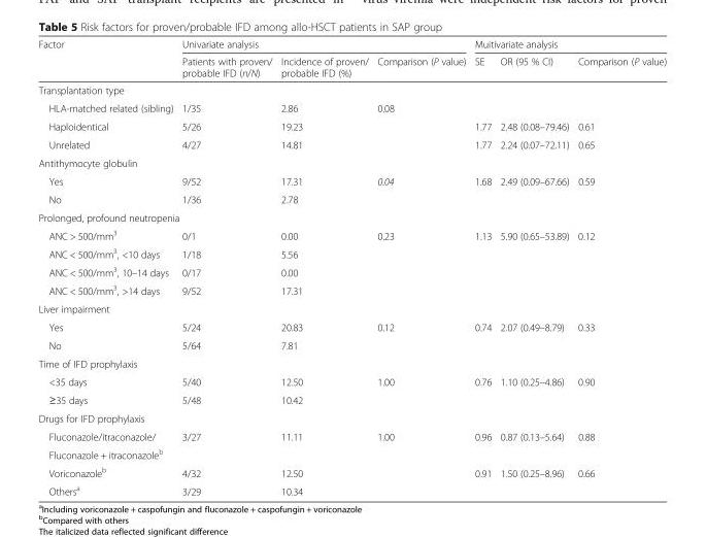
<table><thead><tr><td rowspan="2">Factor</td><td colspan="3">Univariate analysis</td><td colspan="3">Muitivariate analysis</td></tr><tr><td>Patients with proven/ probable IFD (n/N)</td><td>Incidence of proven/ probable IFD (%)</td><td>Comparison (P value)</td><td>SE</td><td>OR (95 % CI)</td><td>Comparison (P value)</td></tr></thead><tbody><tr><td colspan="7">Transplantation type</td></tr><tr><td>HLA-matched related (sibling)</td><td>1/35</td><td>2.86</td><td>0.08</td><td></td><td></td><td></td></tr><tr><td>Haploidentical</td><td>5/26</td><td>19.23</td><td></td><td>1.77</td><td>2.48 (0.08–79.46)</td><td>0.61</td></tr><tr><td>Unrelated</td><td>4/27</td><td>14.81</td><td></td><td>1.77</td><td>2.24 (0.07–72.11)</td><td>0.65</td></tr><tr><td colspan="7">Antithymocyte globulin</td></tr><tr><td>Yes</td><td>9/52</td><td>17.31</td><td>0.04</td><td>1.68</td><td>2.49 (0.09–67.66)</td><td>0.59</td></tr><tr><td>No</td><td>1/36</td><td>2.78</td><td></td><td></td><td></td><td></td></tr><tr><td colspan="7">Prolonged, profound neutropenia</td></tr><tr><td>ANC &gt; 500/mm<sup>3</sup></td><td>0/1</td><td>0.00</td><td>0.23</td><td>1.13</td><td>5.90 (0.65–53.89)</td><td>0.12</td></tr><tr><td>ANC &lt; 500/mm<sup>3</sup>, &lt;10 days</td><td>1/18</td><td>5.56</td><td></td><td></td><td></td><td></td></tr><tr><td>ANC &lt; 500/mm<sup>3</sup>, 10–14 days</td><td>0/17</td><td>0.00</td><td></td><td></td><td></td><td></td></tr><tr><td>ANC &lt; 500/mm<sup>3</sup>, &gt;14 days</td><td>9/52</td><td>17.31</td><td></td><td></td><td></td><td></td></tr><tr><td colspan="7">Liver impairment</td></tr><tr><td>Yes</td><td>5/24</td><td>20.83</td><td>0.12</td><td>0.74</td><td>2.07 (0.49–8.79)</td><td>0.33</td></tr><tr><td>No</td><td>5/64</td><td>7.81</td><td></td><td></td><td></td><td></td></tr><tr><td colspan="7">Time of IFD prophylaxis</td></tr><tr><td>&lt;35 days</td><td>5/40</td><td>12.50</td><td>1.00</td><td>0.76</td><td>1.10 (0.25–4.86)</td><td>0.90</td></tr><tr><td>≥35 days</td><td>5/48</td><td>10.42</td><td></td><td></td><td></td><td></td></tr><tr><td colspan="7">Drugs for IFD prophylaxis</td></tr><tr><td>Fluconazole/itraconazole/</td><td>3/27</td><td>11.11</td><td>1.00</td><td>0.96</td><td>0.87 (0.13–5.64)</td><td>0.88</td></tr><tr><td colspan="7">Fluconazole + itraconazole<sup>b</sup></td></tr><tr><td>Voriconazole<sup>b</sup></td><td>4/32</td><td>12.50</td><td></td><td>0.91</td><td>1.50 (0.25–8.96)</td><td>0.66</td></tr><tr><td>Others<sup>a</sup></td><td>3/29</td><td>10.34</td><td></td><td></td><td></td><td></td></tr></tbody></table>